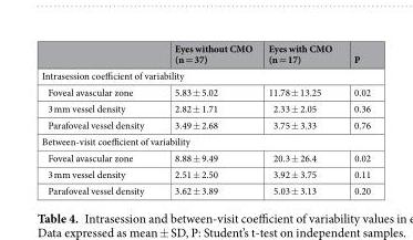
<table><thead><tr><td></td><td>Eyes without CMO (n = 37)</td><td>Eyes with CMO (n = 17)</td><td>P</td></tr></thead><tbody><tr><td colspan="4">Intrasession coefficient of variability</td></tr><tr><td>Foveal avascular zone</td><td>5.83 ± 5.02</td><td>11.78 ± 13.25</td><td>0.02</td></tr><tr><td>3 mm vessel density</td><td>2.82 ± 1.71</td><td>2.33 ± 2.05</td><td>0.36</td></tr><tr><td>Parafoveal vessel density</td><td>3.49 ± 2.68</td><td>3.75 ± 3.33</td><td>0.76</td></tr><tr><td colspan="4">Between-visit coefficient of variability</td></tr><tr><td>Foveal avascular zone</td><td>8.88 ± 9.49</td><td>20.3 ± 26.4</td><td>0.02</td></tr><tr><td>3 mm vessel density</td><td>2.51 ± 2.50</td><td>3.92 ± 3.75</td><td>0.11</td></tr><tr><td>Parafoveal vessel density</td><td>3.62 ± 3.89</td><td>5.03 ± 3.13</td><td>0.20</td></tr></tbody></table>